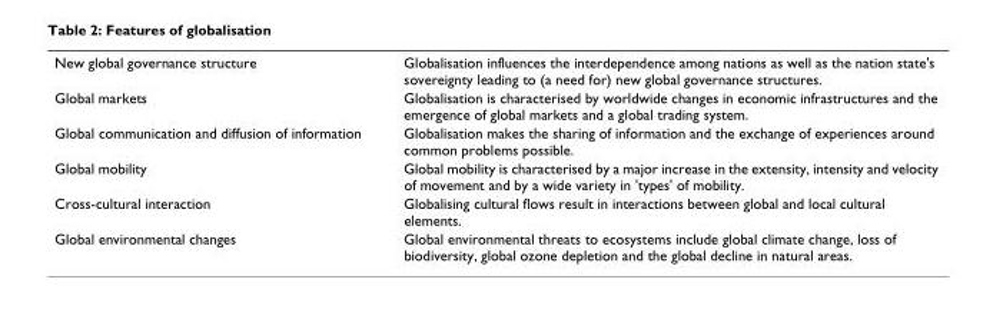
<table><tbody><tr><td>New global governance structure</td><td>Globalisation influences the interdependence among nations as well as the nation state&#x27;s sovereignty leading to (a need for) new global governance structures.</td></tr><tr><td>Global markets</td><td>Globalisation is characterised by worldwide changes in economic infrastructures and the emergence of global markets and a global trading system.</td></tr><tr><td>Global communication and diffusion of information</td><td>Globalisation makes the sharing of information and the exchange of experiences around common problems possible.</td></tr><tr><td>Global mobility</td><td>Global mobility is characterised by a major increase in the extensity, intensity and velocity of movement and by a wide variety in &#x27;types&#x27; of mobility.</td></tr><tr><td>Cross-cultural interaction</td><td>Globalising cultural flows result in interactions between global and local cultural elements.</td></tr><tr><td>Global environmental changes</td><td>Global environmental threats to ecosystems include global climate change, loss of biodiversity, global ozone depletion and the global decline in natural areas.</td></tr></tbody></table>